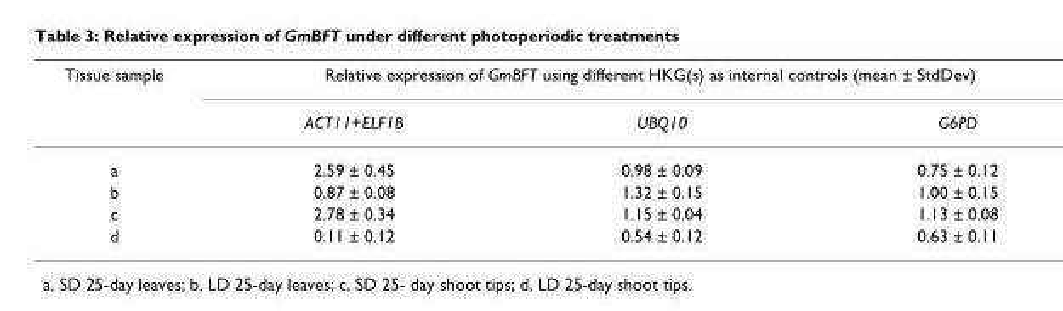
<table><thead><tr><td rowspan="2">Tissue sample</td><td colspan="3">Relative expression of GmBFT using different HKG(s) as internal controls (mean ± StdDev)</td></tr><tr><td>ACT11+ELF1B</td><td>UBQ10</td><td>G6PD</td></tr></thead><tbody><tr><td>a</td><td>2.59 ± 0.45</td><td>0.98 ± 0.09</td><td>0.75 ± 0.12</td></tr><tr><td>b</td><td>0.87 ± 0.08</td><td>1.32 ± 0.15</td><td>1.00 ± 0.15</td></tr><tr><td>c</td><td>2.78 ± 0.34</td><td>1.15 ± 0.04</td><td>1.13 ± 0.08</td></tr><tr><td>d</td><td>0.11 ± 0.12</td><td>0.54 ± 0.12</td><td>0.63 ± 0.11</td></tr></tbody></table>